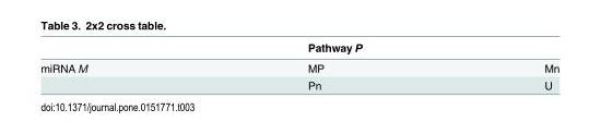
<table><thead><tr><td rowspan="2">miRNA M</td><td colspan="2">Pathway P</td></tr><tr><td>MP</td><td>Mn</td></tr></thead><tbody><tr><td></td><td>Pn</td><td>U</td></tr></tbody></table>